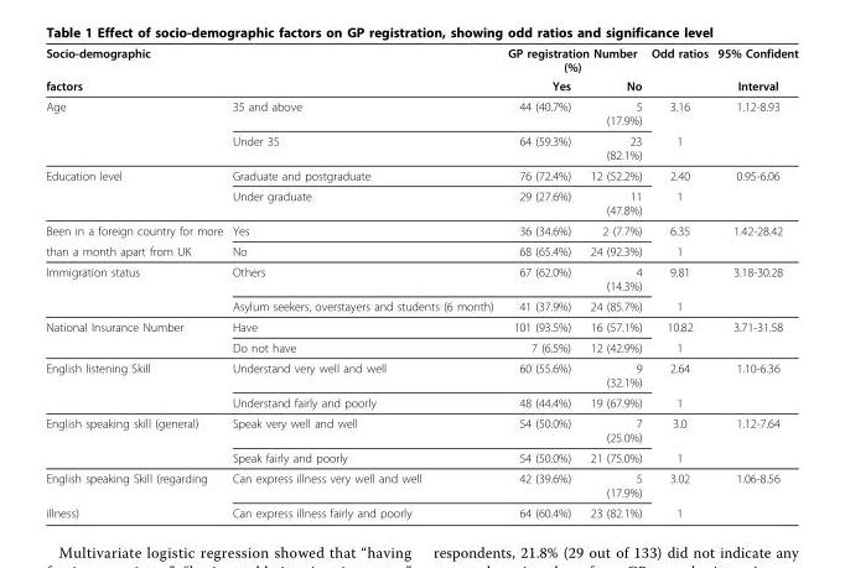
<table><thead><tr><td rowspan="2">Socio-demographic factors</td><td rowspan="2"></td><td colspan="2">GP registration Number (%)</td><td rowspan="2">Odd ratios</td><td rowspan="2">95% Confident Interval</td></tr><tr><td>Yes</td><td>No</td></tr></thead><tbody><tr><td rowspan="2">Age</td><td>35 and above</td><td>44 (40.7%)</td><td>5 (17.9%)</td><td>3.16</td><td>1.12-8.93</td></tr><tr><td>Under 35</td><td>64 (59.3%)</td><td>23 (82.1%)</td><td>1</td><td></td></tr><tr><td rowspan="2">Education level</td><td>Graduate and postgraduate</td><td>76 (72.4%)</td><td>12 (52.2%)</td><td>2.40</td><td>0.95-6.06</td></tr><tr><td>Under graduate</td><td>29 (27.6%)</td><td>11 (47.8%)</td><td>1</td><td></td></tr><tr><td>Been in a foreign country for more</td><td>Yes</td><td>36 (34.6%)</td><td>2 (7.7%)</td><td>6.35</td><td>1.42-28.42</td></tr><tr><td>than a month apart from UK</td><td>No</td><td>68 (65.4%)</td><td>24 (92.3%)</td><td>1</td><td></td></tr><tr><td rowspan="2">Immigration status</td><td>Others</td><td>67 (62.0%)</td><td>4 (14.3%)</td><td>9.81</td><td>3.18-30.28</td></tr><tr><td>Asylum seekers, overstayers and students (6 month)</td><td>41 (37.9%)</td><td>24 (85.7%)</td><td>1</td><td></td></tr><tr><td rowspan="2">National Insurance Number</td><td>Have</td><td>101 (93.5%)</td><td>16 (57.1%)</td><td>10.82</td><td>3.71-31.58</td></tr><tr><td>Do not have</td><td>7 (6.5%)</td><td>12 (42.9%)</td><td>1</td><td></td></tr><tr><td rowspan="2">English listening Skill</td><td>Understand very well and well</td><td>60 (55.6%)</td><td>9 (32.1%)</td><td>2.64</td><td>1.10-6.36</td></tr><tr><td>Understand fairly and poorly</td><td>48 (44.4%)</td><td>19 (67.9%)</td><td>1</td><td></td></tr><tr><td rowspan="2">English speaking skill (general)</td><td>Speak very well and well</td><td>54 (50.0%)</td><td>7 (25.0%)</td><td>3.0</td><td>1.12-7.64</td></tr><tr><td>Speak fairly and poorly</td><td>54 (50.0%)</td><td>21 (75.0%)</td><td>1</td><td></td></tr><tr><td>English speaking Skill (regarding</td><td>Can express illness very well and well</td><td>42 (39.6%)</td><td>5 (17.9%)</td><td>3.02</td><td>1.06-8.56</td></tr><tr><td>illness)</td><td>Can express illness fairly and poorly</td><td>64 (60.4%)</td><td>23 (82.1%)</td><td>1</td><td></td></tr></tbody></table>